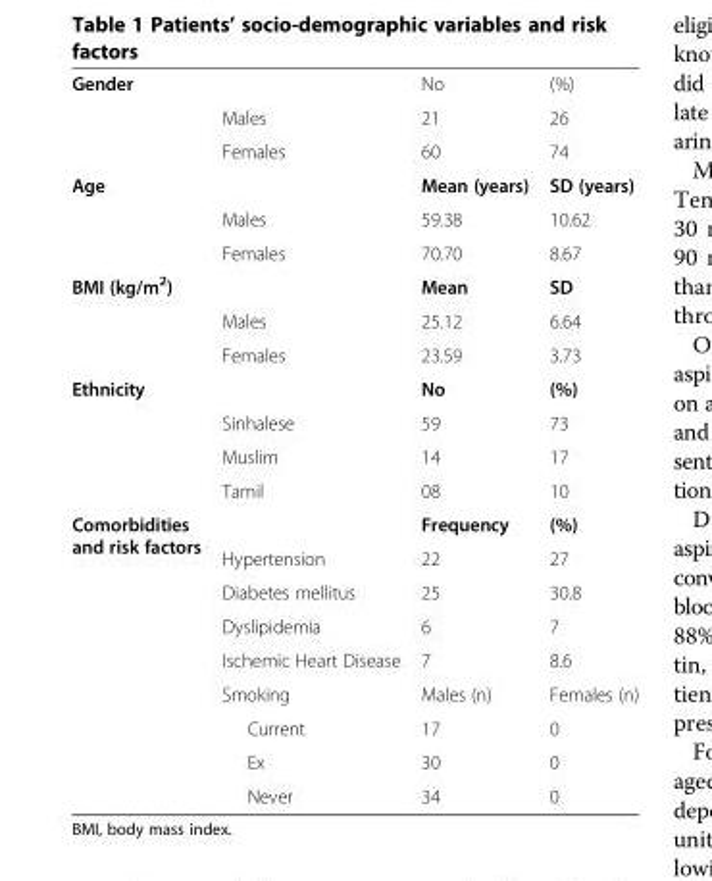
<table><tbody><tr><td rowspan="3">Gender</td><td></td><td>No</td><td>(%)</td></tr><tr><td>Males</td><td>21</td><td>26</td></tr><tr><td>Females</td><td>60</td><td>74</td></tr><tr><td colspan="2">Age</td><td>Mean (years)</td><td>SD (years)</td></tr><tr><td rowspan="2"></td><td>Males</td><td>59.38</td><td>10.62</td></tr><tr><td>Females</td><td>70.70</td><td>8.67</td></tr><tr><td rowspan="3">BMI (kg/m<sup>2</sup>)</td><td></td><td>Mean</td><td>SD</td></tr><tr><td>Males</td><td>25.12</td><td>6.64</td></tr><tr><td>Females</td><td>23.59</td><td>3.73</td></tr><tr><td rowspan="4">Ethnicity</td><td></td><td>No</td><td>(%)</td></tr><tr><td>Sinhalese</td><td>59</td><td>73</td></tr><tr><td>Muslim</td><td>14</td><td>17</td></tr><tr><td>Tamil</td><td>08</td><td>10</td></tr><tr><td rowspan="9">Comorbidities and risk factors</td><td></td><td>Frequency</td><td>(%)</td></tr><tr><td>Hypertension</td><td>22</td><td>27</td></tr><tr><td>Diabetes mellitus</td><td>25</td><td>30.8</td></tr><tr><td>Dyslipidemia</td><td>6</td><td>7</td></tr><tr><td>Ischemic Heart Disease</td><td>7</td><td>8.6</td></tr><tr><td>Smoking</td><td>Males (n)</td><td>Females (n)</td></tr><tr><td>Current</td><td>17</td><td>0</td></tr><tr><td>Ex</td><td>30</td><td>0</td></tr><tr><td>Never</td><td>34</td><td>0</td></tr></tbody></table>